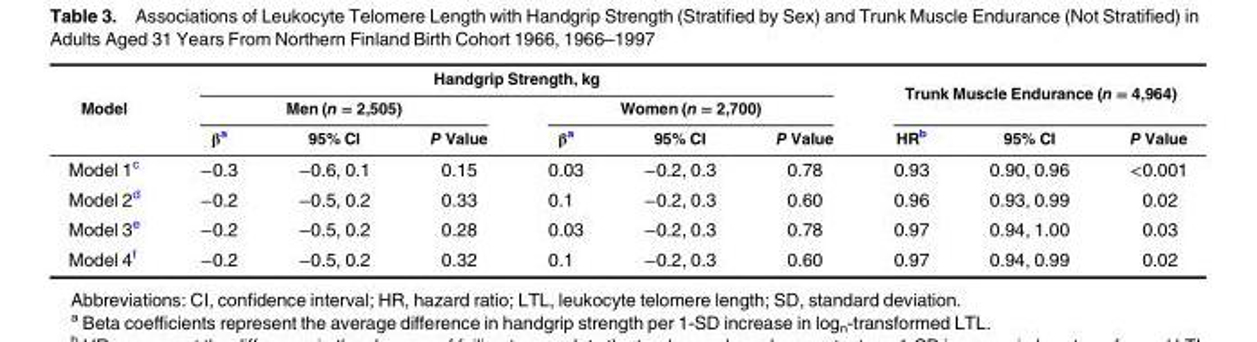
<table><thead><tr><td rowspan="3">Model</td><td colspan="6">Handgrip Strength, kg</td><td rowspan="2" colspan="3">Trunk Muscle Endurance (n = 4,964)</td></tr><tr><td colspan="3">Men (n = 2,505)</td><td colspan="3">Women (n = 2,700)</td></tr><tr><td>β<sup>a</sup></td><td>95% CI</td><td>P Value</td><td>β<sup>a</sup></td><td>95% CI</td><td>P Value</td><td>HR<sup>b</sup></td><td>95% CI</td><td>P Value</td></tr></thead><tbody><tr><td>Model 1<sup>c</sup></td><td>−0.3</td><td>−0.6, 0.1</td><td>0.15</td><td>0.03</td><td>−0.2, 0.3</td><td>0.78</td><td>0.93</td><td>0.90, 0.96</td><td>&lt;0.001</td></tr><tr><td>Model 2<sup>d</sup></td><td>−0.2</td><td>−0.5, 0.2</td><td>0.33</td><td>0.1</td><td>−0.2, 0.3</td><td>0.60</td><td>0.96</td><td>0.93, 0.99</td><td>0.02</td></tr><tr><td>Model 3<sup>e</sup></td><td>−0.2</td><td>−0.5, 0.2</td><td>0.28</td><td>0.03</td><td>−0.2, 0.3</td><td>0.78</td><td>0.97</td><td>0.94, 1.00</td><td>0.03</td></tr><tr><td>Model 4<sup>f</sup></td><td>−0.2</td><td>−0.5, 0.2</td><td>0.32</td><td>0.1</td><td>−0.2, 0.3</td><td>0.60</td><td>0.97</td><td>0.94, 0.99</td><td>0.02</td></tr></tbody></table>